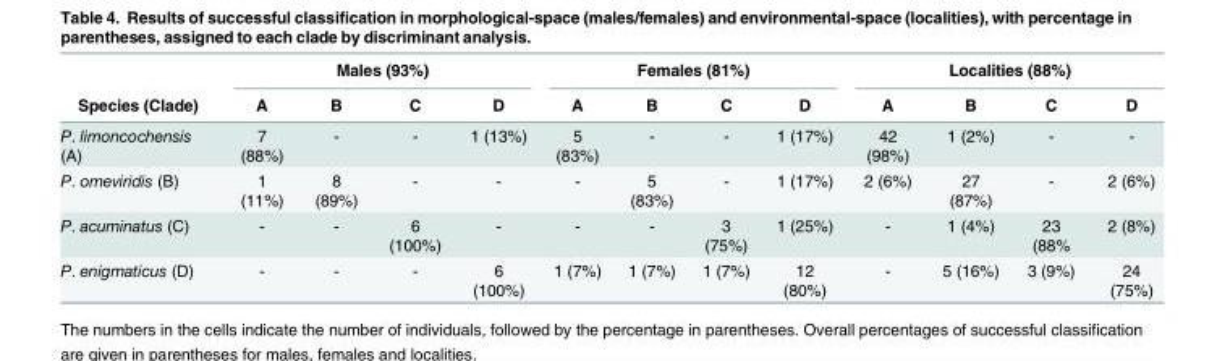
<table><thead><tr><td rowspan="2">Species (Clade)</td><td colspan="4">Males (93%)</td><td colspan="4">Females (81%)</td><td colspan="4">Localities (88%)</td></tr><tr><td>A</td><td>B</td><td>C</td><td>D</td><td>A</td><td>B</td><td>C</td><td>D</td><td>A</td><td>B</td><td>C</td><td>D</td></tr></thead><tbody><tr><td>P. limoncochensis (A)</td><td>7 (88%)</td><td>-</td><td>-</td><td>1 (13%)</td><td>5 (83%)</td><td>-</td><td>-</td><td>1 (17%)</td><td>42 (98%)</td><td>1 (2%)</td><td>-</td><td>-</td></tr><tr><td>P. omeviridis (B)</td><td>1 (11%)</td><td>8 (89%)</td><td>-</td><td>-</td><td>-</td><td>5 (83%)</td><td>-</td><td>1 (17%)</td><td>2 (6%)</td><td>27 (87%)</td><td>-</td><td>2 (6%)</td></tr><tr><td>P. acuminatus (C)</td><td>-</td><td>-</td><td>6 (100%)</td><td>-</td><td>-</td><td>-</td><td>3 (75%)</td><td>1 (25%)</td><td>-</td><td>1 (4%)</td><td>23 (88%</td><td>2 (8%)</td></tr><tr><td>P. enigmaticus (D)</td><td>-</td><td>-</td><td>-</td><td>6 (100%)</td><td>1 (7%)</td><td>1 (7%)</td><td>1 (7%)</td><td>12 (80%)</td><td>-</td><td>5 (16%)</td><td>3 (9%)</td><td>24 (75%)</td></tr></tbody></table>